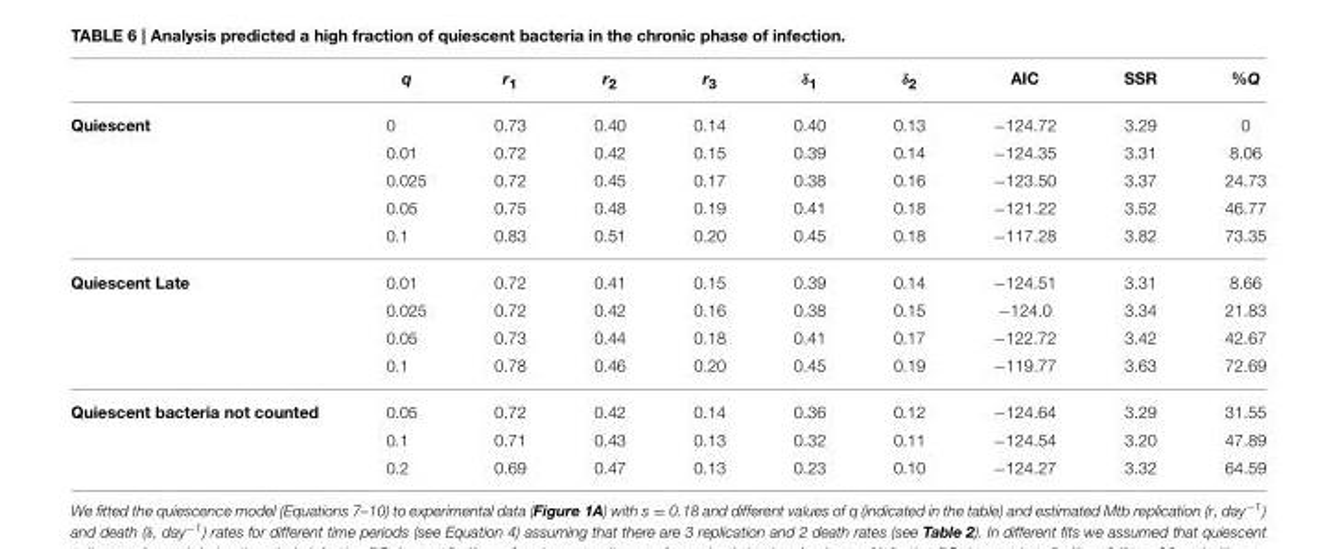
<table><thead><tr><td></td><td>q</td><td>r<sub>1</sub></td><td>r<sub>2</sub></td><td>r<sub>3</sub></td><td>δ<sub>1</sub></td><td>δ<sub>2</sub></td><td>AIC</td><td>SSR</td><td>%Q</td></tr></thead><tbody><tr><td rowspan="5">Quiescent</td><td>0</td><td>0.73</td><td>0.40</td><td>0.14</td><td>0.40</td><td>0.13</td><td>−124.72</td><td>3.29</td><td>0</td></tr><tr><td>0.01</td><td>0.72</td><td>0.42</td><td>0.15</td><td>0.39</td><td>0.14</td><td>−124.35</td><td>3.31</td><td>8.06</td></tr><tr><td>0.025</td><td>0.72</td><td>0.45</td><td>0.17</td><td>0.38</td><td>0.16</td><td>−123.50</td><td>3.37</td><td>24.73</td></tr><tr><td>0.05</td><td>0.75</td><td>0.48</td><td>0.19</td><td>0.41</td><td>0.18</td><td>−121.22</td><td>3.52</td><td>46.77</td></tr><tr><td>0.1</td><td>0.83</td><td>0.51</td><td>0.20</td><td>0.45</td><td>0.18</td><td>−117.28</td><td>3.82</td><td>73.35</td></tr><tr><td rowspan="4">Quiescent Late</td><td>0.01</td><td>0.72</td><td>0.41</td><td>0.15</td><td>0.39</td><td>0.14</td><td>−124.51</td><td>3.31</td><td>8.66</td></tr><tr><td>0.025</td><td>0.72</td><td>0.42</td><td>0.16</td><td>0.38</td><td>0.15</td><td>−124.0</td><td>3.34</td><td>21.83</td></tr><tr><td>0.05</td><td>0.73</td><td>0.44</td><td>0.18</td><td>0.41</td><td>0.17</td><td>−122.72</td><td>3.42</td><td>42.67</td></tr><tr><td>0.1</td><td>0.78</td><td>0.46</td><td>0.20</td><td>0.45</td><td>0.19</td><td>−119.77</td><td>3.63</td><td>72.69</td></tr><tr><td rowspan="3">Quiescent bacteria not counted</td><td>0.05</td><td>0.72</td><td>0.42</td><td>0.14</td><td>0.36</td><td>0.12</td><td>−124.64</td><td>3.29</td><td>31.55</td></tr><tr><td>0.1</td><td>0.71</td><td>0.43</td><td>0.13</td><td>0.32</td><td>0.11</td><td>−124.54</td><td>3.20</td><td>47.89</td></tr><tr><td>0.2</td><td>0.69</td><td>0.47</td><td>0.13</td><td>0.23</td><td>0.10</td><td>−124.27</td><td>3.32</td><td>64.59</td></tr></tbody></table>